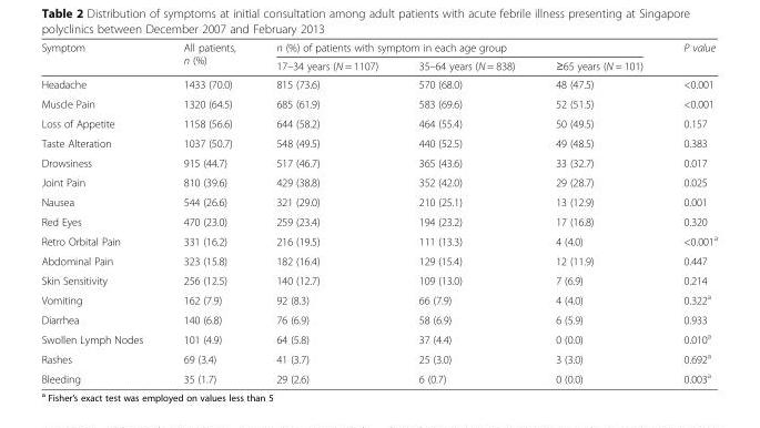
<table><thead><tr><td rowspan="2">Symptom</td><td rowspan="2">All patients, n (%)</td><td colspan="3">n (%) of patients with symptom in each age group</td><td rowspan="2">P value</td></tr><tr><td>17–34 years (N = 1107)</td><td>35–64 years (N = 838)</td><td>≥65 years (N = 101)</td></tr></thead><tbody><tr><td>Headache</td><td>1433 (70.0)</td><td>815 (73.6)</td><td>570 (68.0)</td><td>48 (47.5)</td><td>&lt;0.001</td></tr><tr><td>Muscle Pain</td><td>1320 (64.5)</td><td>685 (61.9)</td><td>583 (69.6)</td><td>52 (51.5)</td><td>&lt;0.001</td></tr><tr><td>Loss of Appetite</td><td>1158 (56.6)</td><td>644 (58.2)</td><td>464 (55.4)</td><td>50 (49.5)</td><td>0.157</td></tr><tr><td>Taste Alteration</td><td>1037 (50.7)</td><td>548 (49.5)</td><td>440 (52.5)</td><td>49 (48.5)</td><td>0.383</td></tr><tr><td>Drowsiness</td><td>915 (44.7)</td><td>517 (46.7)</td><td>365 (43.6)</td><td>33 (32.7)</td><td>0.017</td></tr><tr><td>Joint Pain</td><td>810 (39.6)</td><td>429 (38.8)</td><td>352 (42.0)</td><td>29 (28.7)</td><td>0.025</td></tr><tr><td>Nausea</td><td>544 (26.6)</td><td>321 (29.0)</td><td>210 (25.1)</td><td>13 (12.9)</td><td>0.001</td></tr><tr><td>Red Eyes</td><td>470 (23.0)</td><td>259 (23.4)</td><td>194 (23.2)</td><td>17 (16.8)</td><td>0.320</td></tr><tr><td>Retro Orbital Pain</td><td>331 (16.2)</td><td>216 (19.5)</td><td>111 (13.3)</td><td>4 (4.0)</td><td>&lt;0.001<sup>a</sup></td></tr><tr><td>Abdominal Pain</td><td>323 (15.8)</td><td>182 (16.4)</td><td>129 (15.4)</td><td>12 (11.9)</td><td>0.447</td></tr><tr><td>Skin Sensitivity</td><td>256 (12.5)</td><td>140 (12.7)</td><td>109 (13.0)</td><td>7 (6.9)</td><td>0.214</td></tr><tr><td>Vomiting</td><td>162 (7.9)</td><td>92 (8.3)</td><td>66 (7.9)</td><td>4 (4.0)</td><td>0.322<sup>a</sup></td></tr><tr><td>Diarrhea</td><td>140 (6.8)</td><td>76 (6.9)</td><td>58 (6.9)</td><td>6 (5.9)</td><td>0.933</td></tr><tr><td>Swollen Lymph Nodes</td><td>101 (4.9)</td><td>64 (5.8)</td><td>37 (4.4)</td><td>0 (0.0)</td><td>0.010<sup>a</sup></td></tr><tr><td>Rashes</td><td>69 (3.4)</td><td>41 (3.7)</td><td>25 (3.0)</td><td>3 (3.0)</td><td>0.692<sup>a</sup></td></tr><tr><td>Bleeding</td><td>35 (1.7)</td><td>29 (2.6)</td><td>6 (0.7)</td><td>0 (0.0)</td><td>0.003<sup>a</sup></td></tr></tbody></table>